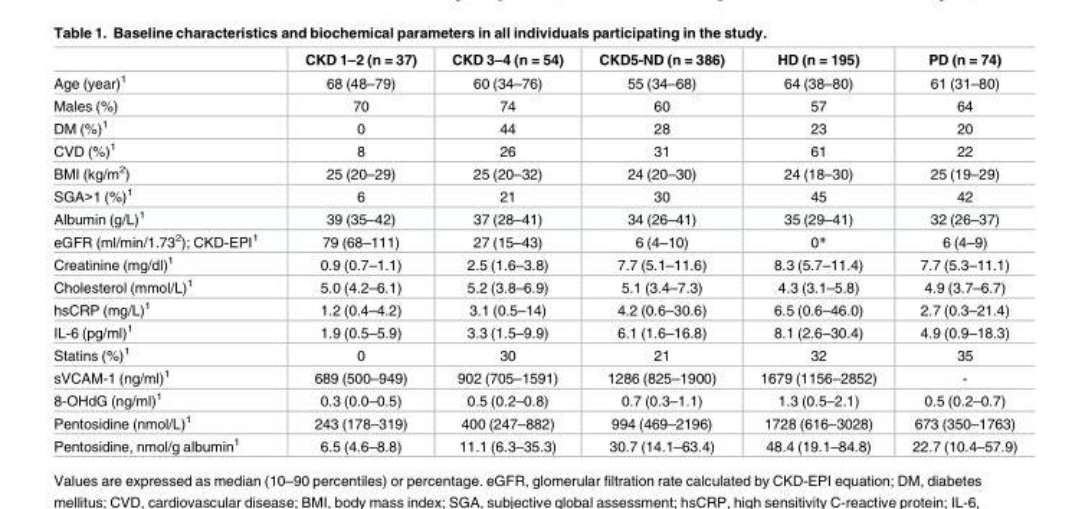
<table><thead><tr><td></td><td>CKD 1–2 (n = 37)</td><td>CKD 3–4 (n = 54)</td><td>CKD5-ND (n = 386)</td><td>HD (n = 195)</td><td>PD (n = 74)</td></tr></thead><tbody><tr><td>Age (year)<sup>1</sup></td><td>68 (48–79)</td><td>60 (34–76)</td><td>55 (34–68)</td><td>64 (38–80)</td><td>61 (31–80)</td></tr><tr><td>Males (%)</td><td>70</td><td>74</td><td>60</td><td>57</td><td>64</td></tr><tr><td>DM (%)<sup>1</sup></td><td>0</td><td>44</td><td>28</td><td>23</td><td>20</td></tr><tr><td>CVD (%)<sup>1</sup></td><td>8</td><td>26</td><td>31</td><td>61</td><td>22</td></tr><tr><td>BMI (kg/m<sup>2</sup>)</td><td>25 (20–29)</td><td>25 (20–32)</td><td>24 (20–30)</td><td>24 (18–30)</td><td>25 (19–29)</td></tr><tr><td>SGA&gt;1 (%)<sup>1</sup></td><td>6</td><td>21</td><td>30</td><td>45</td><td>42</td></tr><tr><td>Albumin (g/L)<sup>1</sup></td><td>39 (35–42)</td><td>37 (28–41)</td><td>34 (26–41)</td><td>35 (29–41)</td><td>32 (26–37)</td></tr><tr><td>eGFR (ml/min/1.73<sup>2</sup>); CKD-EPI<sup>1</sup></td><td>79 (68–111)</td><td>27 (15–43)</td><td>6 (4–10)</td><td>0*</td><td>6 (4–9)</td></tr><tr><td>Creatinine (mg/dl)<sup>1</sup></td><td>0.9 (0.7–1.1)</td><td>2.5 (1.6–3.8)</td><td>7.7 (5.1–11.6)</td><td>8.3 (5.7–11.4)</td><td>7.7 (5.3–11.1)</td></tr><tr><td>Cholesterol (mmol/L)<sup>1</sup></td><td>5.0 (4.2–6.1)</td><td>5.2 (3.8–6.9)</td><td>5.1 (3.4–7.3)</td><td>4.3 (3.1–5.8)</td><td>4.9 (3.7–6.7)</td></tr><tr><td>hsCRP (mg/L)<sup>1</sup></td><td>1.2 (0.4–4.2)</td><td>3.1 (0.5–14)</td><td>4.2 (0.6–30.6)</td><td>6.5 (0.6–46.0)</td><td>2.7 (0.3–21.4)</td></tr><tr><td>IL-6 (pg/ml)<sup>1</sup></td><td>1.9 (0.5–5.9)</td><td>3.3 (1.5–9.9)</td><td>6.1 (1.6–16.8)</td><td>8.1 (2.6–30.4)</td><td>4.9 (0.9–18.3)</td></tr><tr><td>Statins (%)<sup>1</sup></td><td>0</td><td>30</td><td>21</td><td>32</td><td>35</td></tr><tr><td>sVCAM-1 (ng/ml)<sup>1</sup></td><td>689 (500–949)</td><td>902 (705–1591)</td><td>1286 (825–1900)</td><td>1679 (1156–2852)</td><td>-</td></tr><tr><td>8-OHdG (ng/ml)<sup>1</sup></td><td>0.3 (0.0–0.5)</td><td>0.5 (0.2–0.8)</td><td>0.7 (0.3–1.1)</td><td>1.3 (0.5–2.1)</td><td>0.5 (0.2–0.7)</td></tr><tr><td>Pentosidine (nmol/L)<sup>1</sup></td><td>243 (178–319)</td><td>400 (247–882)</td><td>994 (469–2196)</td><td>1728 (616–3028)</td><td>673 (350–1763)</td></tr><tr><td>Pentosidine, nmol/g albumin<sup>1</sup></td><td>6.5 (4.6–8.8)</td><td>11.1 (6.3–35.3)</td><td>30.7 (14.1–63.4)</td><td>48.4 (19.1–84.8)</td><td>22.7 (10.4–57.9)</td></tr></tbody></table>